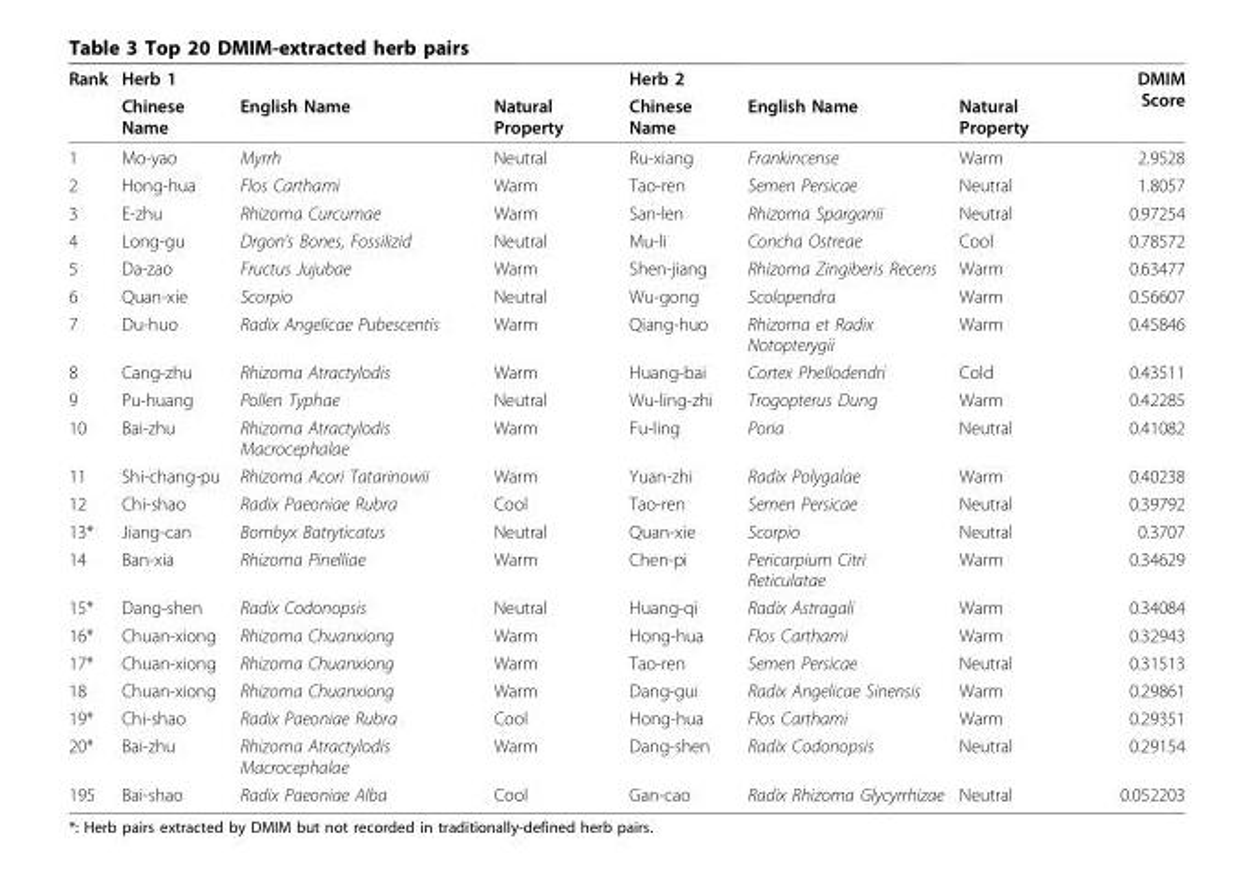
<table><thead><tr><td rowspan="2">Rank</td><td colspan="3">Herb 1</td><td colspan="3">Herb 2</td><td rowspan="2">DMIM Score</td></tr><tr><td>Chinese Name</td><td>English Name</td><td>Natural Property</td><td>Chinese Name</td><td>English Name</td><td>Natural Property</td></tr></thead><tbody><tr><td>1</td><td>Mo-yao</td><td>Myrrh</td><td>Neutral</td><td>Ru-xiang</td><td>Frankincense</td><td>Warm</td><td>2.9528</td></tr><tr><td>2</td><td>Hong-hua</td><td>Flos Carthami</td><td>Warm</td><td>Tao-ren</td><td>Semen Persicae</td><td>Neutral</td><td>1.8057</td></tr><tr><td>3</td><td>E-zhu</td><td>Rhizoma Curcumae</td><td>Warm</td><td>San-len</td><td>Rhizoma Sparganii</td><td>Neutral</td><td>0.97254</td></tr><tr><td>4</td><td>Long-gu</td><td>Drgon’s Bones, Fossilizid</td><td>Neutral</td><td>Mu-li</td><td>Concha Ostreae</td><td>Cool</td><td>0.78572</td></tr><tr><td>5</td><td>Da-zao</td><td>Fructus Jujubae</td><td>Warm</td><td>Shen-jiang</td><td>Rhizoma Zingiberis Recens</td><td>Warm</td><td>0.63477</td></tr><tr><td>6</td><td>Quan-xie</td><td>Scorpio</td><td>Neutral</td><td>Wu-gong</td><td>Scolopendra</td><td>Warm</td><td>0.56607</td></tr><tr><td>7</td><td>Du-huo</td><td>Radix Angelicae Pubescentis</td><td>Warm</td><td>Qiang-huo</td><td>Rhizoma et Radix Notopterygii</td><td>Warm</td><td>0.45846</td></tr><tr><td>8</td><td>Cang-zhu</td><td>Rhizoma Atractylodis</td><td>Warm</td><td>Huang-bai</td><td>Cortex Phellodendri</td><td>Cold</td><td>0.43511</td></tr><tr><td>9</td><td>Pu-huang</td><td>Pollen Typhae</td><td>Neutral</td><td>Wu-ling-zhi</td><td>Trogopterus Dung</td><td>Warm</td><td>0.42285</td></tr><tr><td>10</td><td>Bai-zhu</td><td>Rhizoma Atractylodis Macrocephalae</td><td>Warm</td><td>Fu-ling</td><td>Poria</td><td>Neutral</td><td>0.41082</td></tr><tr><td>11</td><td>Shi-chang-pu</td><td>Rhizoma Acori Tatarinowii</td><td>Warm</td><td>Yuan-zhi</td><td>Radix Polygalae</td><td>Warm</td><td>0.40238</td></tr><tr><td>12</td><td>Chi-shao</td><td>Radix Paeoniae Rubra</td><td>Cool</td><td>Tao-ren</td><td>Semen Persicae</td><td>Neutral</td><td>0.39792</td></tr><tr><td>13*</td><td>Jiang-can</td><td>Bombyx Batryticatus</td><td>Neutral</td><td>Quan-xie</td><td>Scorpio</td><td>Neutral</td><td>0.3707</td></tr><tr><td>14</td><td>Ban-xia</td><td>Rhizoma Pinelliae</td><td>Warm</td><td>Chen-pi</td><td>Pericarpium Citri Reticulatae</td><td>Warm</td><td>0.34629</td></tr><tr><td>15*</td><td>Dang-shen</td><td>Radix Codonopsis</td><td>Neutral</td><td>Huang-qi</td><td>Radix Astragali</td><td>Warm</td><td>0.34084</td></tr><tr><td>16*</td><td>Chuan-xiong</td><td>Rhizoma Chuanxiong</td><td>Warm</td><td>Hong-hua</td><td>Flos Carthami</td><td>Warm</td><td>0.32943</td></tr><tr><td>17*</td><td>Chuan-xiong</td><td>Rhizoma Chuanxiong</td><td>Warm</td><td>Tao-ren</td><td>Semen Persicae</td><td>Neutral</td><td>0.31513</td></tr><tr><td>18</td><td>Chuan-xiong</td><td>Rhizoma Chuanxiong</td><td>Warm</td><td>Dang-gui</td><td>Radix Angelicae Sinensis</td><td>Warm</td><td>0.29861</td></tr><tr><td>19*</td><td>Chi-shao</td><td>Radix Paeoniae Rubra</td><td>Cool</td><td>Hong-hua</td><td>Flos Carthami</td><td>Warm</td><td>0.29351</td></tr><tr><td>20*</td><td>Bai-zhu</td><td>Rhizoma Atractylodis Macrocephalae</td><td>Warm</td><td>Dang-shen</td><td>Radix Codonopsis</td><td>Neutral</td><td>0.29154</td></tr><tr><td>195</td><td>Bai-shao</td><td>Radix Paeoniae Alba</td><td>Cool</td><td>Gan-cao</td><td>Radix Rhizoma Glycyrrhizae</td><td>Neutral</td><td>0.052203</td></tr></tbody></table>